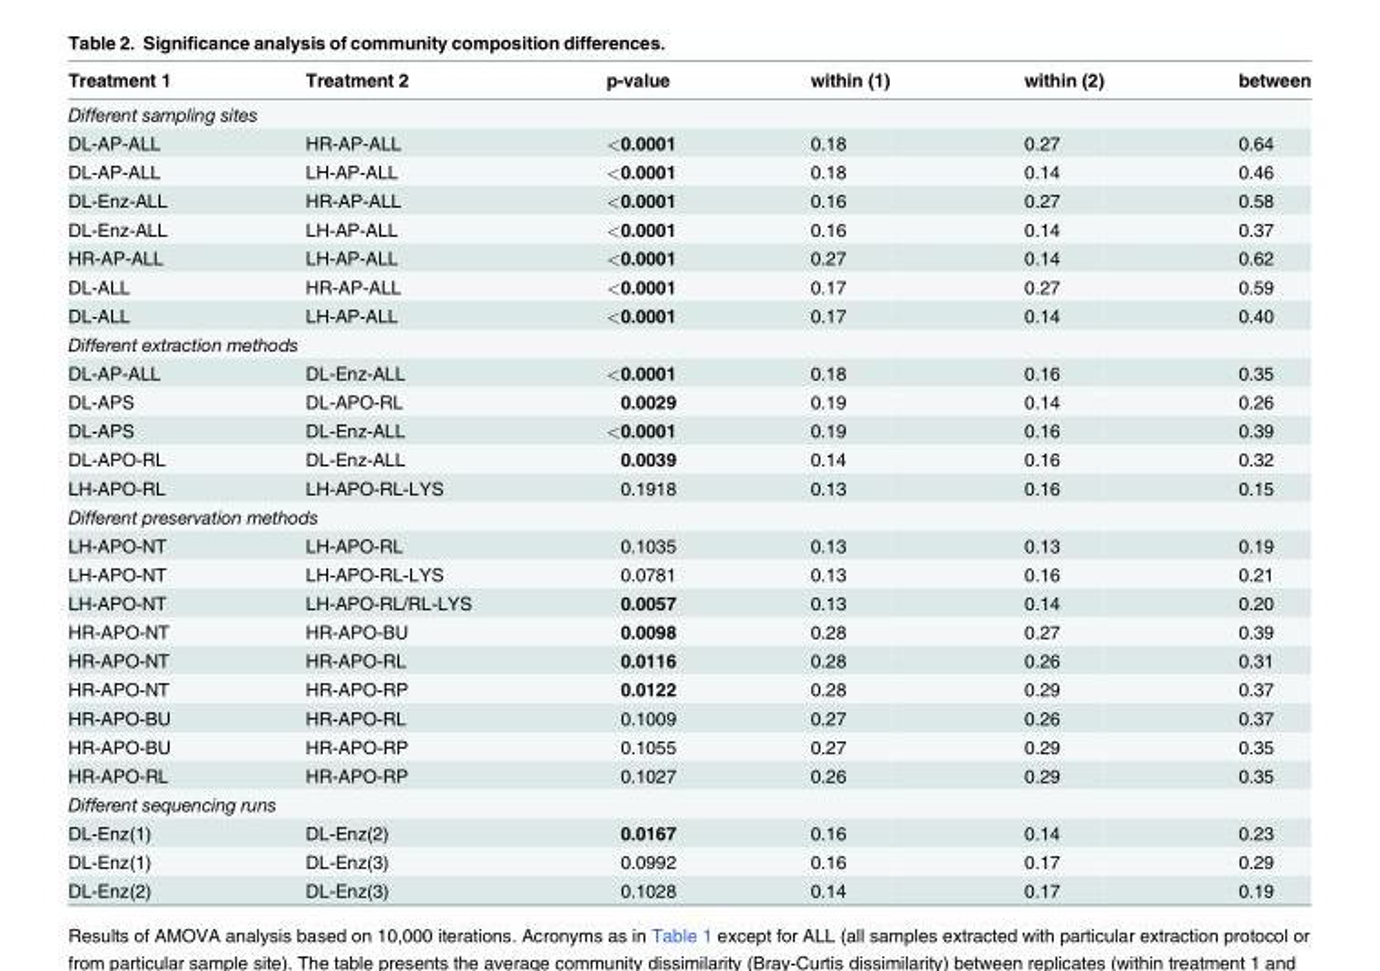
<table><thead><tr><td>Treatment 1</td><td>Treatment 2</td><td>p-value</td><td>within (1)</td><td>within (2)</td><td>between</td></tr></thead><tbody><tr><td colspan="6">Different sampling sites</td></tr><tr><td>DL-AP-ALL</td><td>HR-AP-ALL</td><td>&lt;0.0001</td><td>0.18</td><td>0.27</td><td>0.64</td></tr><tr><td>DL-AP-ALL</td><td>LH-AP-ALL</td><td>&lt;0.0001</td><td>0.18</td><td>0.14</td><td>0.46</td></tr><tr><td>DL-Enz-ALL</td><td>HR-AP-ALL</td><td>&lt;0.0001</td><td>0.16</td><td>0.27</td><td>0.58</td></tr><tr><td>DL-Enz-ALL</td><td>LH-AP-ALL</td><td>&lt;0.0001</td><td>0.16</td><td>0.14</td><td>0.37</td></tr><tr><td>HR-AP-ALL</td><td>LH-AP-ALL</td><td>&lt;0.0001</td><td>0.27</td><td>0.14</td><td>0.62</td></tr><tr><td>DL-ALL</td><td>HR-AP-ALL</td><td>&lt;0.0001</td><td>0.17</td><td>0.27</td><td>0.59</td></tr><tr><td>DL-ALL</td><td>LH-AP-ALL</td><td>&lt;0.0001</td><td>0.17</td><td>0.14</td><td>0.40</td></tr><tr><td colspan="6">Different extraction methods</td></tr><tr><td>DL-AP-ALL</td><td>DL-Enz-ALL</td><td>&lt;0.0001</td><td>0.18</td><td>0.16</td><td>0.35</td></tr><tr><td>DL-APS</td><td>DL-APO-RL</td><td>0.0029</td><td>0.19</td><td>0.14</td><td>0.26</td></tr><tr><td>DL-APS</td><td>DL-Enz-ALL</td><td>&lt;0.0001</td><td>0.19</td><td>0.16</td><td>0.39</td></tr><tr><td>DL-APO-RL</td><td>DL-Enz-ALL</td><td>0.0039</td><td>0.14</td><td>0.16</td><td>0.32</td></tr><tr><td>LH-APO-RL</td><td>LH-APO-RL-LYS</td><td>0.1918</td><td>0.13</td><td>0.16</td><td>0.15</td></tr><tr><td colspan="6">Different preservation methods</td></tr><tr><td>LH-APO-NT</td><td>LH-APO-RL</td><td>0.1035</td><td>0.13</td><td>0.13</td><td>0.19</td></tr><tr><td>LH-APO-NT</td><td>LH-APO-RL-LYS</td><td>0.0781</td><td>0.13</td><td>0.16</td><td>0.21</td></tr><tr><td>LH-APO-NT</td><td>LH-APO-RL/RL-LYS</td><td>0.0057</td><td>0.13</td><td>0.14</td><td>0.20</td></tr><tr><td>HR-APO-NT</td><td>HR-APO-BU</td><td>0.0098</td><td>0.28</td><td>0.27</td><td>0.39</td></tr><tr><td>HR-APO-NT</td><td>HR-APO-RL</td><td>0.0116</td><td>0.28</td><td>0.26</td><td>0.31</td></tr><tr><td>HR-APO-NT</td><td>HR-APO-RP</td><td>0.0122</td><td>0.28</td><td>0.29</td><td>0.37</td></tr><tr><td>HR-APO-BU</td><td>HR-APO-RL</td><td>0.1009</td><td>0.27</td><td>0.26</td><td>0.37</td></tr><tr><td>HR-APO-BU</td><td>HR-APO-RP</td><td>0.1055</td><td>0.27</td><td>0.29</td><td>0.35</td></tr><tr><td>HR-APO-RL</td><td>HR-APO-RP</td><td>0.1027</td><td>0.26</td><td>0.29</td><td>0.35</td></tr><tr><td colspan="6">Different sequencing runs</td></tr><tr><td>DL-Enz(1)</td><td>DL-Enz(2)</td><td>0.0167</td><td>0.16</td><td>0.14</td><td>0.23</td></tr><tr><td>DL-Enz(1)</td><td>DL-Enz(3)</td><td>0.0992</td><td>0.16</td><td>0.17</td><td>0.29</td></tr><tr><td>DL-Enz(2)</td><td>DL-Enz(3)</td><td>0.1028</td><td>0.14</td><td>0.17</td><td>0.19</td></tr></tbody></table>